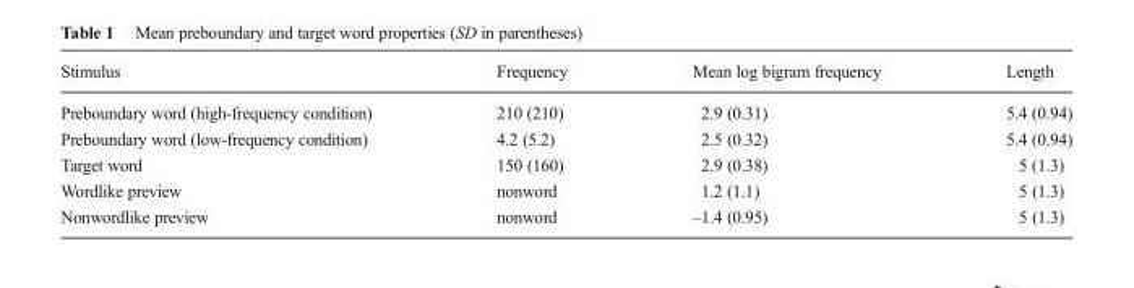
<table><thead><tr><td>Stimulus</td><td>Frequency</td><td>Mean log bigram frequency</td><td>Length</td></tr></thead><tbody><tr><td>Preboundary word (high-frequency condition)</td><td>210 (210)</td><td>2.9 (0.31)</td><td>5.4 (0.94)</td></tr><tr><td>Preboundary word (low-frequency condition)</td><td>4.2 (5.2)</td><td>2.5 (0.32)</td><td>5.4 (0.94)</td></tr><tr><td>Target word</td><td>150 (160)</td><td>2.9 (0.38)</td><td>5 (1.3)</td></tr><tr><td>Wordlike preview</td><td>nonword</td><td>1.2 (1.1)</td><td>5 (1.3)</td></tr><tr><td>Nonwordlike preview</td><td>nonword</td><td>–1.4 (0.95)</td><td>5 (1.3)</td></tr></tbody></table>